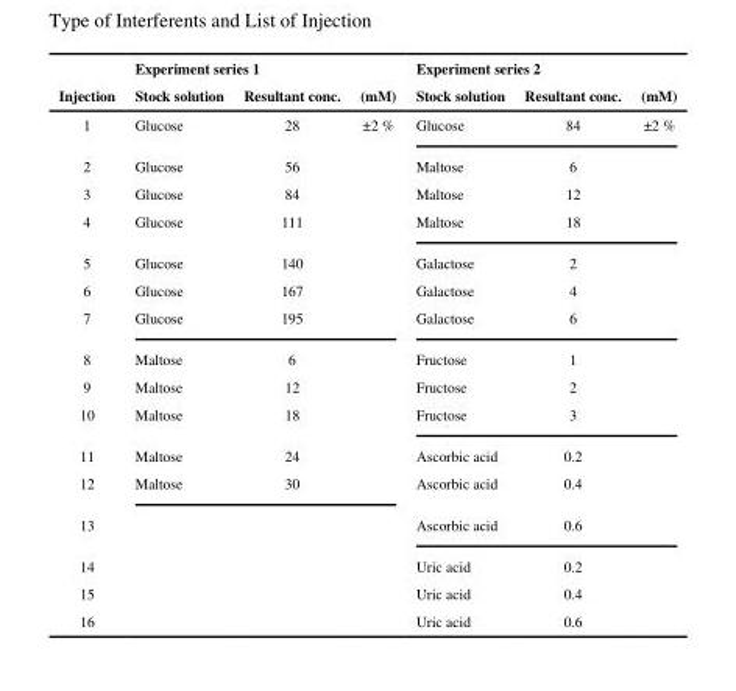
<table><thead><tr><td rowspan="2">Injection</td><td colspan="3">Experiment series 1</td><td colspan="3">Experiment series 2</td></tr><tr><td>Stock solution</td><td>Resultant conc.</td><td>(mM)</td><td>Stock solution</td><td>Resultant conc.</td><td>(mM)</td></tr></thead><tbody><tr><td>1</td><td>Glucose</td><td>28</td><td>±2 %</td><td>Glucose</td><td>84</td><td>±2 %</td></tr><tr><td>2</td><td>Glucose</td><td>56</td><td></td><td>Maltose</td><td>6</td><td></td></tr><tr><td>3</td><td>Glucose</td><td>84</td><td></td><td>Maltose</td><td>12</td><td></td></tr><tr><td>4</td><td>Glucose</td><td>111</td><td></td><td>Maltose</td><td>18</td><td></td></tr><tr><td>5</td><td>Glucose</td><td>140</td><td></td><td>Galactose</td><td>2</td><td></td></tr><tr><td>6</td><td>Glucose</td><td>167</td><td></td><td>Galactose</td><td>4</td><td></td></tr><tr><td>7</td><td>Glucose</td><td>195</td><td></td><td>Galactose</td><td>6</td><td></td></tr><tr><td>8</td><td>Maltose</td><td>6</td><td></td><td>Fructose</td><td>1</td><td></td></tr><tr><td>9</td><td>Maltose</td><td>12</td><td></td><td>Fructose</td><td>2</td><td></td></tr><tr><td>10</td><td>Maltose</td><td>18</td><td></td><td>Fructose</td><td>3</td><td></td></tr><tr><td>11</td><td>Maltose</td><td>24</td><td></td><td>Ascorbic acid</td><td>0.2</td><td></td></tr><tr><td>12</td><td>Maltose</td><td>30</td><td></td><td>Ascorbic acid</td><td>0.4</td><td></td></tr><tr><td>13</td><td></td><td></td><td></td><td>Ascorbic acid</td><td>0.6</td><td></td></tr><tr><td>14</td><td></td><td></td><td></td><td>Uric acid</td><td>0.2</td><td></td></tr><tr><td>15</td><td></td><td></td><td></td><td>Uric acid</td><td>0.4</td><td></td></tr><tr><td>16</td><td></td><td></td><td></td><td>Uric acid</td><td>0.6</td><td></td></tr></tbody></table>